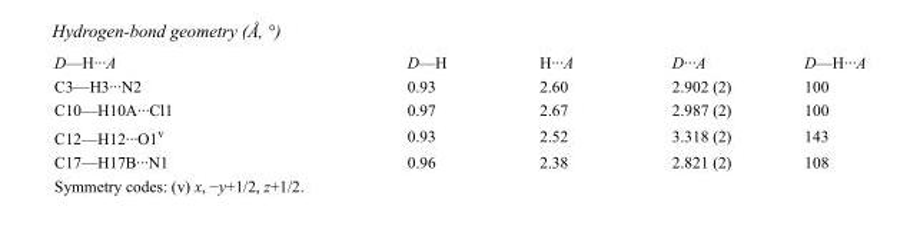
<table><tbody><tr><td>D—H···A</td><td>D—H</td><td>H···A</td><td>D···A</td><td>D—H···A</td></tr><tr><td>C3—H3···N2</td><td>0.93</td><td>2.60</td><td>2.902 (2)</td><td>100</td></tr><tr><td>C10—H10A···Cl1</td><td>0.97</td><td>2.67</td><td>2.987 (2)</td><td>100</td></tr><tr><td>C12—H12···O1<sup>v</sup></td><td>0.93</td><td>2.52</td><td>3.318 (2)</td><td>143</td></tr><tr><td>C17—H17B···N1</td><td>0.96</td><td>2.38</td><td>2.821 (2)</td><td>108</td></tr></tbody></table>